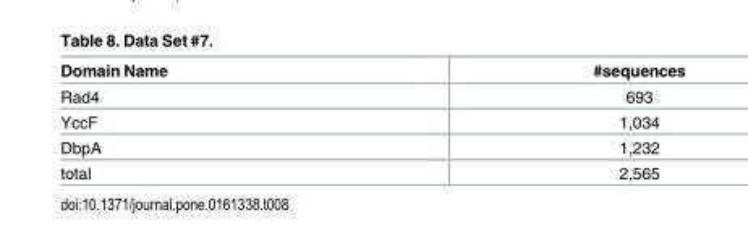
<table><thead><tr><td>Domain Name</td><td>#sequences</td></tr></thead><tbody><tr><td>Rad4</td><td>693</td></tr><tr><td>YccF</td><td>1,034</td></tr><tr><td>DbpA</td><td>1,232</td></tr><tr><td>total</td><td>2,565</td></tr></tbody></table>